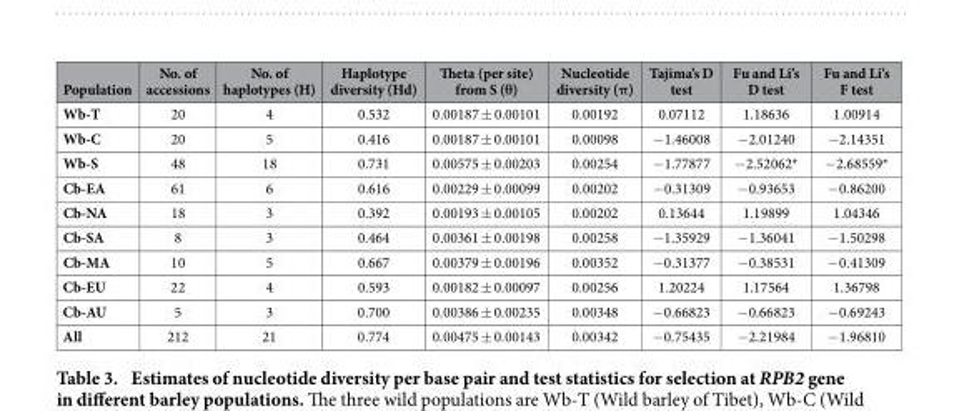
<table><thead><tr><td>Population</td><td>No. of accessions</td><td>No. of haplotypes (H)</td><td>Haplotype diversity (Hd)</td><td>Theta (per site) from S (θ)</td><td>Nucleotide diversity (π)</td><td>Tajima’s D test</td><td>Fu and Li’s D test</td><td>Fu and Li’s F test</td></tr></thead><tbody><tr><td>Wb-T</td><td>20</td><td>4</td><td>0.532</td><td>0.00187 ± 0.00101</td><td>0.00192</td><td>0.07112</td><td>1.18636</td><td>1.00914</td></tr><tr><td>Wb-C</td><td>20</td><td>5</td><td>0.416</td><td>0.00187 ± 0.00101</td><td>0.00098</td><td>− 1.46008</td><td>− 2.01240</td><td>− 2.14351</td></tr><tr><td>Wb-S</td><td>48</td><td>18</td><td>0.731</td><td>0.00575 ± 0.00203</td><td>0.00254</td><td>− 1.77877</td><td>− 2.52062*</td><td>− 2.68559*</td></tr><tr><td>Cb-EA</td><td>61</td><td>6</td><td>0.616</td><td>0.00229 ± 0.00099</td><td>0.00202</td><td>− 0.31309</td><td>− 0.93653</td><td>− 0.86200</td></tr><tr><td>Cb-NA</td><td>18</td><td>3</td><td>0.392</td><td>0.00193 ± 0.00105</td><td>0.00202</td><td>0.13644</td><td>1.19899</td><td>1.04346</td></tr><tr><td>Cb-SA</td><td>8</td><td>3</td><td>0.464</td><td>0.00361 ± 0.00198</td><td>0.00258</td><td>− 1.35929</td><td>− 1.36041</td><td>− 1.50298</td></tr><tr><td>Cb-MA</td><td>10</td><td>5</td><td>0.667</td><td>0.00379 ± 0.00196</td><td>0.00352</td><td>− 0.31377</td><td>− 0.38531</td><td>− 0.41309</td></tr><tr><td>Cb-EU</td><td>22</td><td>4</td><td>0.593</td><td>0.00182 ± 0.00097</td><td>0.00256</td><td>1.20224</td><td>1.17564</td><td>1.36798</td></tr><tr><td>Cb-AU</td><td>5</td><td>3</td><td>0.700</td><td>0.00386 ± 0.00235</td><td>0.00348</td><td>− 0.66823</td><td>− 0.66823</td><td>− 0.69243</td></tr><tr><td>All</td><td>212</td><td>21</td><td>0.774</td><td>0.00475 ± 0.00143</td><td>0.00342</td><td>− 0.75435</td><td>− 2.21984</td><td>− 1.96810</td></tr></tbody></table>